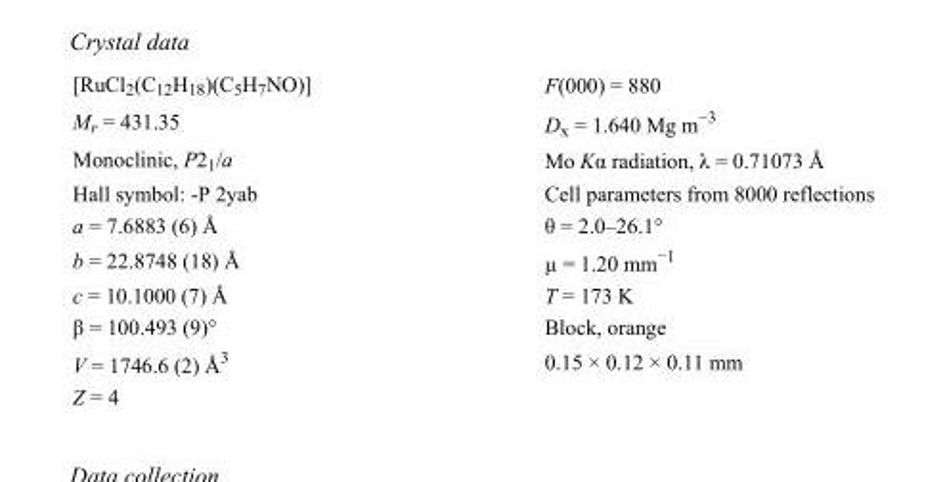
<table><tbody><tr><td>[RuCl<sub>2</sub>(C<sub>12</sub>H<sub>18</sub>)(C<sub>5</sub>H<sub>7</sub>NO)]</td><td>F(000) = 880</td></tr><tr><td>M<sub>r</sub> = 431.35</td><td>D<sub>x</sub> = 1.640 Mg m<sup>−3</sup></td></tr><tr><td>Monoclinic, P2<sub>1</sub>/a</td><td>Mo Kα radiation, λ = 0.71073 Å</td></tr><tr><td>Hall symbol: -P 2yab</td><td>Cell parameters from 8000 reflections</td></tr><tr><td>a = 7.6883 (6) Å</td><td>θ = 2.0–26.1°</td></tr><tr><td>b = 22.8748 (18) Å</td><td>µ = 1.20 mm<sup>−1</sup></td></tr><tr><td>c = 10.1000 (7) Å</td><td>T = 173 K</td></tr><tr><td>β = 100.493 (9)°</td><td>Block, orange</td></tr><tr><td>V = 1746.6 (2) Å<sup>3</sup></td><td>0.15 × 0.12 × 0.11 mm</td></tr><tr><td>Z = 4</td><td></td></tr></tbody></table>